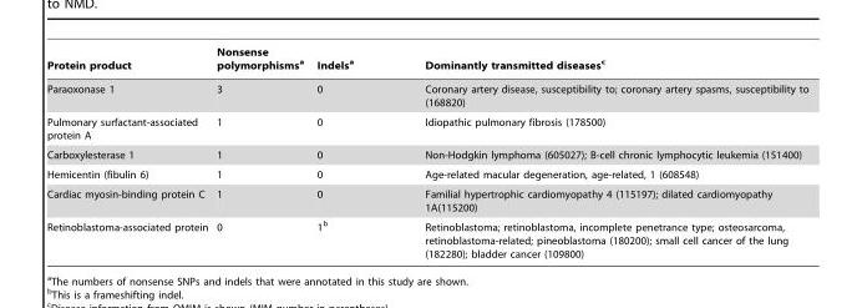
<table><thead><tr><td>Protein product</td><td>Nonsense polymorphisms<sup>a</sup></td><td>Indels<sup>a</sup></td><td>Dominantly transmitted diseases<sup>c</sup></td></tr></thead><tbody><tr><td>Paraoxonase 1</td><td>3</td><td>0</td><td>Coronary artery disease, susceptibility to; coronary artery spasms, susceptibility to (168820)</td></tr><tr><td>Pulmonary surfactant-associated protein A</td><td>1</td><td>0</td><td>Idiopathic pulmonary fibrosis (178500)</td></tr><tr><td>Carboxylesterase 1</td><td>1</td><td>0</td><td>Non-Hodgkin lymphoma (605027); B-cell chronic lymphocytic leukemia (151400)</td></tr><tr><td>Hemicentin (fibulin 6)</td><td>1</td><td>0</td><td>Age-related macular degeneration, age-related, 1 (608548)</td></tr><tr><td>Cardiac myosin-binding protein C</td><td>1</td><td>0</td><td>Familial hypertrophic cardiomyopathy 4 (115197); dilated cardiomyopathy 1A(115200)</td></tr><tr><td>Retinoblastoma-associated protein</td><td>0</td><td>1<sup>b</sup></td><td>Retinoblastoma; retinoblastoma, incomplete penetrance type; osteosarcoma, retinoblastoma-related; pineoblastoma (180200); small cell cancer of the lung (182280); bladder cancer (109800)</td></tr></tbody></table>